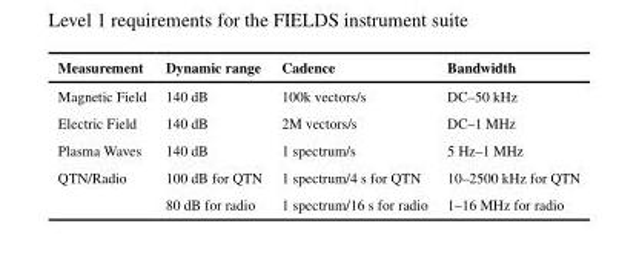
<table><thead><tr><td>Measurement</td><td>Dynamic range</td><td>Cadence</td><td>Bandwidth</td></tr></thead><tbody><tr><td>Magnetic Field</td><td>140 dB</td><td>100k vectors/s</td><td>DC–50 kHz</td></tr><tr><td>Electric Field</td><td>140 dB</td><td>2M vectors/s</td><td>DC–1 MHz</td></tr><tr><td>Plasma Waves</td><td>140 dB</td><td>1 spectrum/s</td><td>5 Hz–1 MHz</td></tr><tr><td rowspan="2">QTN/Radio</td><td>100 dB for QTN</td><td>1 spectrum/4 s for QTN</td><td>10–2500 kHz for QTN</td></tr><tr><td>80 dB for radio</td><td>1 spectrum/16 s for radio</td><td>1–16 MHz for radio</td></tr></tbody></table>